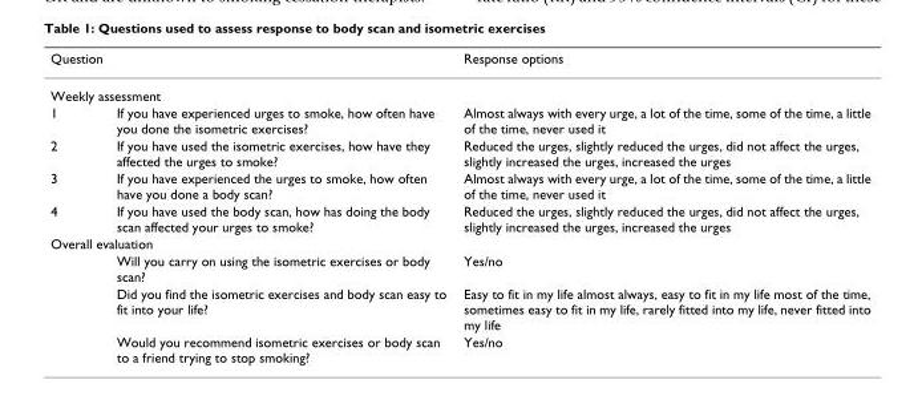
<table><thead><tr><td>Question</td><td></td><td>Response options</td></tr></thead><tbody><tr><td colspan="3">Weekly assessment</td></tr><tr><td>1</td><td>If you have experienced urges to smoke, how often have you done the isometric exercises?</td><td>Almost always with every urge, a lot of the time, some of the time, a little of the time, never used it</td></tr><tr><td>2</td><td>If you have used the isometric exercises, how have they affected the urges to smoke?</td><td>Reduced the urges, slightly reduced the urges, did not affect the urges, slightly increased the urges, increased the urges</td></tr><tr><td>3</td><td>If you have experienced the urges to smoke, how often have you done a body scan?</td><td>Almost always with every urge, a lot of the time, some of the time, a little of the time, never used it</td></tr><tr><td>4</td><td>If you have used the body scan, how has doing the body scan affected your urges to smoke?</td><td>Reduced the urges, slightly reduced the urges, did not affect the urges, slightly increased the urges, increased the urges</td></tr><tr><td colspan="3">Overall evaluation</td></tr><tr><td></td><td>Will you carry on using the isometric exercises or body scan?</td><td>Yes/no</td></tr><tr><td></td><td>Did you find the isometric exercises and body scan easy to fit into your life?</td><td>Easy to fit in my life almost always, easy to fit in my life most of the time, sometimes easy to fit in my life, rarely fitted into my life, never fitted into my life</td></tr><tr><td></td><td>Would you recommend isometric exercises or body scan to a friend trying to stop smoking?</td><td>Yes/no</td></tr></tbody></table>